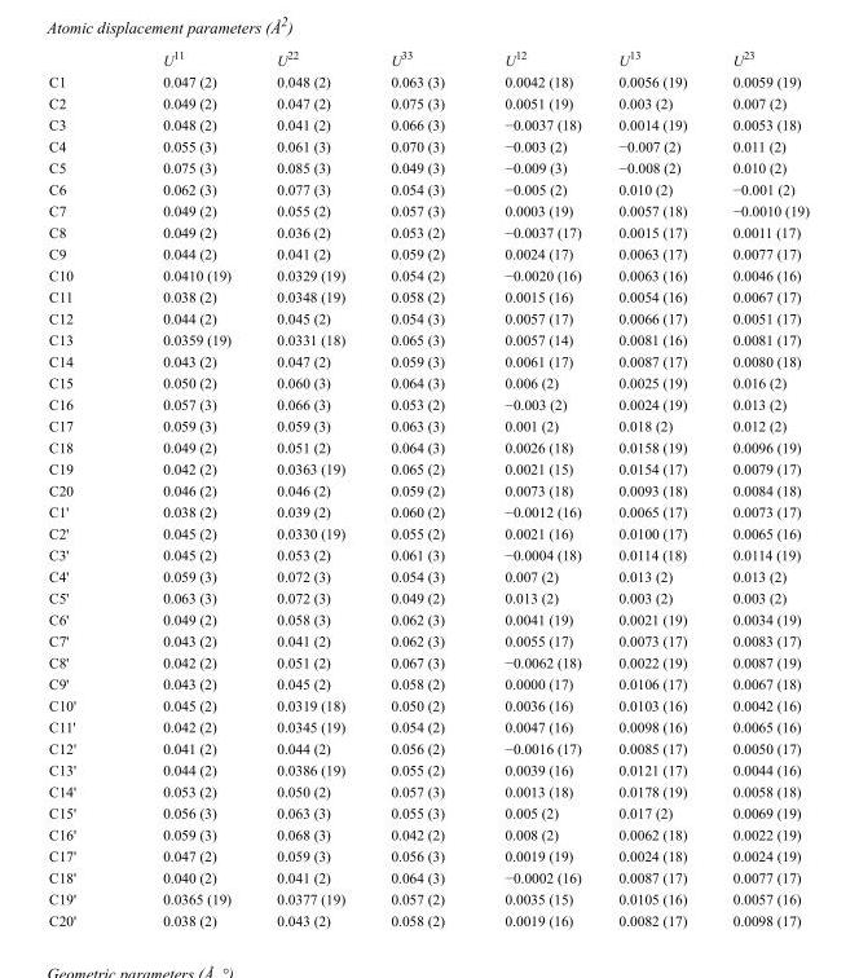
<table><thead><tr><td></td><td>U<sup>11</sup></td><td>U<sup>22</sup></td><td>U<sup>33</sup></td><td>U<sup>12</sup></td><td>U<sup>13</sup></td><td>U<sup>23</sup></td></tr></thead><tbody><tr><td>C1</td><td>0.047 (2)</td><td>0.048 (2)</td><td>0.063 (3)</td><td>0.0042 (18)</td><td>0.0056 (19)</td><td>0.0059 (19)</td></tr><tr><td>C2</td><td>0.049 (2)</td><td>0.047 (2)</td><td>0.075 (3)</td><td>0.0051 (19)</td><td>0.003 (2)</td><td>0.007 (2)</td></tr><tr><td>C3</td><td>0.048 (2)</td><td>0.041 (2)</td><td>0.066 (3)</td><td>−0.0037 (18)</td><td>0.0014 (19)</td><td>0.0053 (18)</td></tr><tr><td>C4</td><td>0.055 (3)</td><td>0.061 (3)</td><td>0.070 (3)</td><td>−0.003 (2)</td><td>−0.007 (2)</td><td>0.011 (2)</td></tr><tr><td>C5</td><td>0.075 (3)</td><td>0.085 (3)</td><td>0.049 (3)</td><td>−0.009 (3)</td><td>−0.008 (2)</td><td>0.010 (2)</td></tr><tr><td>C6</td><td>0.062 (3)</td><td>0.077 (3)</td><td>0.054 (3)</td><td>−0.005 (2)</td><td>0.010 (2)</td><td>−0.001 (2)</td></tr><tr><td>C7</td><td>0.049 (2)</td><td>0.055 (2)</td><td>0.057 (3)</td><td>0.0003 (19)</td><td>0.0057 (18)</td><td>−0.0010 (19)</td></tr><tr><td>C8</td><td>0.049 (2)</td><td>0.036 (2)</td><td>0.053 (2)</td><td>−0.0037 (17)</td><td>0.0015 (17)</td><td>0.0011 (17)</td></tr><tr><td>C9</td><td>0.044 (2)</td><td>0.041 (2)</td><td>0.059 (2)</td><td>0.0024 (17)</td><td>0.0063 (17)</td><td>0.0077 (17)</td></tr><tr><td>C10</td><td>0.0410 (19)</td><td>0.0329 (19)</td><td>0.054 (2)</td><td>−0.0020 (16)</td><td>0.0063 (16)</td><td>0.0046 (16)</td></tr><tr><td>C11</td><td>0.038 (2)</td><td>0.0348 (19)</td><td>0.058 (2)</td><td>0.0015 (16)</td><td>0.0054 (16)</td><td>0.0067 (17)</td></tr><tr><td>C12</td><td>0.044 (2)</td><td>0.045 (2)</td><td>0.054 (3)</td><td>0.0057 (17)</td><td>0.0066 (17)</td><td>0.0051 (17)</td></tr><tr><td>C13</td><td>0.0359 (19)</td><td>0.0331 (18)</td><td>0.065 (3)</td><td>0.0057 (14)</td><td>0.0081 (16)</td><td>0.0081 (17)</td></tr><tr><td>C14</td><td>0.043 (2)</td><td>0.047 (2)</td><td>0.059 (3)</td><td>0.0061 (17)</td><td>0.0087 (17)</td><td>0.0080 (18)</td></tr><tr><td>C15</td><td>0.050 (2)</td><td>0.060 (3)</td><td>0.064 (3)</td><td>0.006 (2)</td><td>0.0025 (19)</td><td>0.016 (2)</td></tr><tr><td>C16</td><td>0.057 (3)</td><td>0.066 (3)</td><td>0.053 (2)</td><td>−0.003 (2)</td><td>0.0024 (19)</td><td>0.013 (2)</td></tr><tr><td>C17</td><td>0.059 (3)</td><td>0.059 (3)</td><td>0.063 (3)</td><td>0.001 (2)</td><td>0.018 (2)</td><td>0.012 (2)</td></tr><tr><td>C18</td><td>0.049 (2)</td><td>0.051 (2)</td><td>0.064 (3)</td><td>0.0026 (18)</td><td>0.0158 (19)</td><td>0.0096 (19)</td></tr><tr><td>C19</td><td>0.042 (2)</td><td>0.0363 (19)</td><td>0.065 (2)</td><td>0.0021 (15)</td><td>0.0154 (17)</td><td>0.0079 (17)</td></tr><tr><td>C20</td><td>0.046 (2)</td><td>0.046 (2)</td><td>0.059 (2)</td><td>0.0073 (18)</td><td>0.0093 (18)</td><td>0.0084 (18)</td></tr><tr><td>C1&#x27;</td><td>0.038 (2)</td><td>0.039 (2)</td><td>0.060 (2)</td><td>−0.0012 (16)</td><td>0.0065 (17)</td><td>0.0073 (17)</td></tr><tr><td>C2&#x27;</td><td>0.045 (2)</td><td>0.0330 (19)</td><td>0.055 (2)</td><td>0.0021 (16)</td><td>0.0100 (17)</td><td>0.0065 (16)</td></tr><tr><td>C3&#x27;</td><td>0.045 (2)</td><td>0.053 (2)</td><td>0.061 (3)</td><td>−0.0004 (18)</td><td>0.0114 (18)</td><td>0.0114 (19)</td></tr><tr><td>C4&#x27;</td><td>0.059 (3)</td><td>0.072 (3)</td><td>0.054 (3)</td><td>0.007 (2)</td><td>0.013 (2)</td><td>0.013 (2)</td></tr><tr><td>C5&#x27;</td><td>0.063 (3)</td><td>0.072 (3)</td><td>0.049 (2)</td><td>0.013 (2)</td><td>0.003 (2)</td><td>0.003 (2)</td></tr><tr><td>C6&#x27;</td><td>0.049 (2)</td><td>0.058 (3)</td><td>0.062 (3)</td><td>0.0041 (19)</td><td>0.0021 (19)</td><td>0.0034 (19)</td></tr><tr><td>C7&#x27;</td><td>0.043 (2)</td><td>0.041 (2)</td><td>0.062 (3)</td><td>0.0055 (17)</td><td>0.0073 (17)</td><td>0.0083 (17)</td></tr><tr><td>C8&#x27;</td><td>0.042 (2)</td><td>0.051 (2)</td><td>0.067 (3)</td><td>−0.0062 (18)</td><td>0.0022 (19)</td><td>0.0087 (19)</td></tr><tr><td>C9&#x27;</td><td>0.043 (2)</td><td>0.045 (2)</td><td>0.058 (2)</td><td>0.0000 (17)</td><td>0.0106 (17)</td><td>0.0067 (18)</td></tr><tr><td>C10&#x27;</td><td>0.045 (2)</td><td>0.0319 (18)</td><td>0.050 (2)</td><td>0.0036 (16)</td><td>0.0103 (16)</td><td>0.0042 (16)</td></tr><tr><td>C11&#x27;</td><td>0.042 (2)</td><td>0.0345 (19)</td><td>0.054 (2)</td><td>0.0047 (16)</td><td>0.0098 (16)</td><td>0.0065 (16)</td></tr><tr><td>C12&#x27;</td><td>0.041 (2)</td><td>0.044 (2)</td><td>0.056 (2)</td><td>−0.0016 (17)</td><td>0.0085 (17)</td><td>0.0050 (17)</td></tr><tr><td>C13&#x27;</td><td>0.044 (2)</td><td>0.0386 (19)</td><td>0.055 (2)</td><td>0.0039 (16)</td><td>0.0121 (17)</td><td>0.0044 (16)</td></tr><tr><td>C14&#x27;</td><td>0.053 (2)</td><td>0.050 (2)</td><td>0.057 (3)</td><td>0.0013 (18)</td><td>0.0178 (19)</td><td>0.0058 (18)</td></tr><tr><td>C15&#x27;</td><td>0.056 (3)</td><td>0.063 (3)</td><td>0.055 (3)</td><td>0.005 (2)</td><td>0.017 (2)</td><td>0.0069 (19)</td></tr><tr><td>C16&#x27;</td><td>0.059 (3)</td><td>0.068 (3)</td><td>0.042 (2)</td><td>0.008 (2)</td><td>0.0062 (18)</td><td>0.0022 (19)</td></tr><tr><td>C17&#x27;</td><td>0.047 (2)</td><td>0.059 (3)</td><td>0.056 (3)</td><td>0.0019 (19)</td><td>0.0024 (18)</td><td>0.0024 (19)</td></tr><tr><td>C18&#x27;</td><td>0.040 (2)</td><td>0.041 (2)</td><td>0.064 (3)</td><td>−0.0002 (16)</td><td>0.0087 (17)</td><td>0.0077 (17)</td></tr><tr><td>C19&#x27;</td><td>0.0365 (19)</td><td>0.0377 (19)</td><td>0.057 (2)</td><td>0.0035 (15)</td><td>0.0105 (16)</td><td>0.0057 (16)</td></tr><tr><td>C20&#x27;</td><td>0.038 (2)</td><td>0.043 (2)</td><td>0.058 (2)</td><td>0.0019 (16)</td><td>0.0082 (17)</td><td>0.0098 (17)</td></tr></tbody></table>